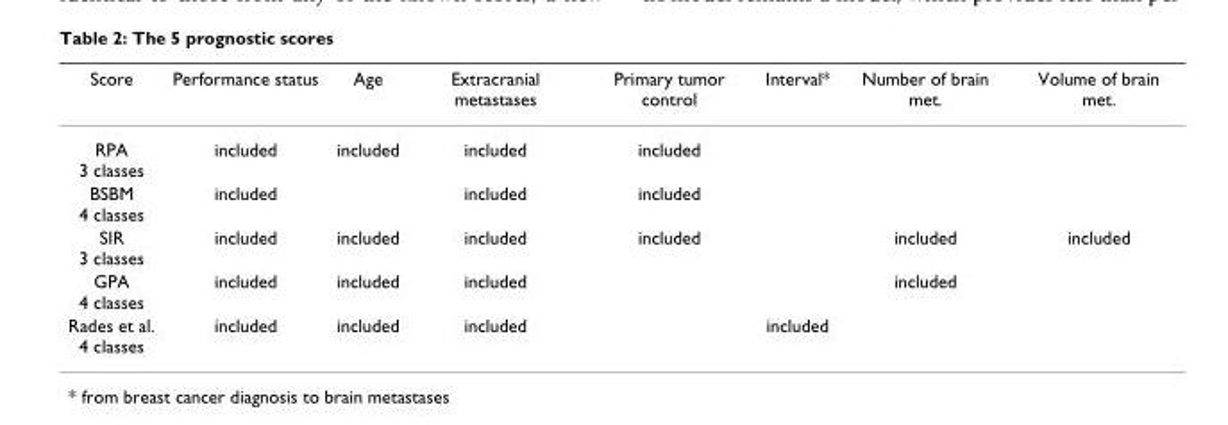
<table><thead><tr><td>Score</td><td>Performance status</td><td>Age</td><td>Extracranial metastases</td><td>Primary tumor control</td><td>Interval*</td><td>Number of brain met.</td><td>Volume of brain met.</td></tr></thead><tbody><tr><td>RPA 3 classes</td><td>included</td><td>included</td><td>included</td><td>included</td><td></td><td></td><td></td></tr><tr><td>BSBM 4 classes</td><td>included</td><td></td><td>included</td><td>included</td><td></td><td></td><td></td></tr><tr><td>SIR 3 classes</td><td>included</td><td>included</td><td>included</td><td>included</td><td></td><td>included</td><td>included</td></tr><tr><td>GPA 4 classes</td><td>included</td><td>included</td><td>included</td><td></td><td></td><td>included</td><td></td></tr><tr><td>Rades et al. 4 classes</td><td>included</td><td>included</td><td>included</td><td></td><td>included</td><td></td><td></td></tr></tbody></table>